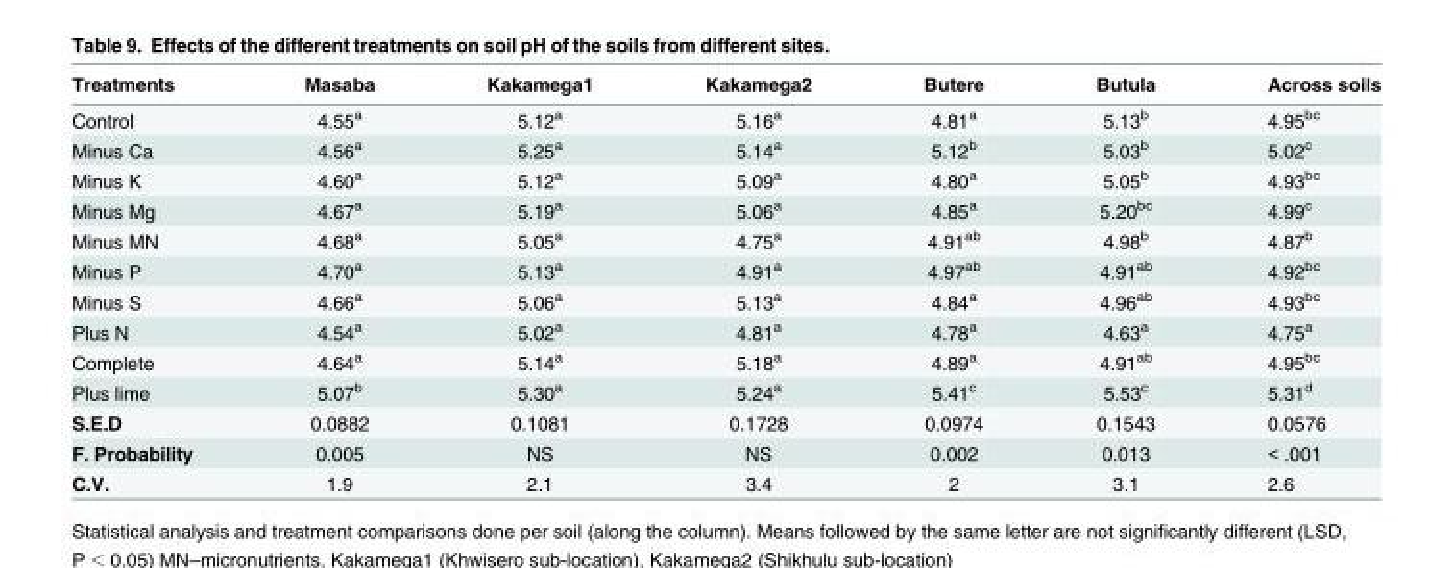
<table><thead><tr><td>Treatments</td><td>Masaba</td><td>Kakamega1</td><td>Kakamega2</td><td>Butere</td><td>Butula</td><td>Across soils</td></tr></thead><tbody><tr><td>Control</td><td>4.55<sup>a</sup></td><td>5.12<sup>a</sup></td><td>5.16<sup>a</sup></td><td>4.81<sup>a</sup></td><td>5.13<sup>b</sup></td><td>4.95<sup>bc</sup></td></tr><tr><td>Minus Ca</td><td>4.56<sup>a</sup></td><td>5.25<sup>a</sup></td><td>5.14<sup>a</sup></td><td>5.12<sup>b</sup></td><td>5.03<sup>b</sup></td><td>5.02<sup>c</sup></td></tr><tr><td>Minus K</td><td>4.60<sup>a</sup></td><td>5.12<sup>a</sup></td><td>5.09<sup>a</sup></td><td>4.80<sup>a</sup></td><td>5.05<sup>b</sup></td><td>4.93<sup>bc</sup></td></tr><tr><td>Minus Mg</td><td>4.67<sup>a</sup></td><td>5.19<sup>a</sup></td><td>5.06<sup>a</sup></td><td>4.85<sup>a</sup></td><td>5.20<sup>bc</sup></td><td>4.99<sup>c</sup></td></tr><tr><td>Minus MN</td><td>4.68<sup>a</sup></td><td>5.05<sup>a</sup></td><td>4.75<sup>a</sup></td><td>4.91<sup>ab</sup></td><td>4.98<sup>b</sup></td><td>4.87<sup>b</sup></td></tr><tr><td>Minus P</td><td>4.70<sup>a</sup></td><td>5.13<sup>a</sup></td><td>4.91<sup>a</sup></td><td>4.97<sup>ab</sup></td><td>4.91<sup>ab</sup></td><td>4.92<sup>bc</sup></td></tr><tr><td>Minus S</td><td>4.66<sup>a</sup></td><td>5.06<sup>a</sup></td><td>5.13<sup>a</sup></td><td>4.84<sup>a</sup></td><td>4.96<sup>ab</sup></td><td>4.93<sup>bc</sup></td></tr><tr><td>Plus N</td><td>4.54<sup>a</sup></td><td>5.02<sup>a</sup></td><td>4.81<sup>a</sup></td><td>4.78<sup>a</sup></td><td>4.63<sup>a</sup></td><td>4.75<sup>a</sup></td></tr><tr><td>Complete</td><td>4.64<sup>a</sup></td><td>5.14<sup>a</sup></td><td>5.18<sup>a</sup></td><td>4.89<sup>a</sup></td><td>4.91<sup>ab</sup></td><td>4.95<sup>bc</sup></td></tr><tr><td>Plus lime</td><td>5.07<sup>b</sup></td><td>5.30<sup>a</sup></td><td>5.24<sup>a</sup></td><td>5.41<sup>c</sup></td><td>5.53<sup>c</sup></td><td>5.31<sup>d</sup></td></tr><tr><td>S.E.D</td><td>0.0882</td><td>0.1081</td><td>0.1728</td><td>0.0974</td><td>0.1543</td><td>0.0576</td></tr><tr><td>F. Probability</td><td>0.005</td><td>NS</td><td>NS</td><td>0.002</td><td>0.013</td><td>&lt; .001</td></tr><tr><td>C.V.</td><td>1.9</td><td>2.1</td><td>3.4</td><td>2</td><td>3.1</td><td>2.6</td></tr></tbody></table>